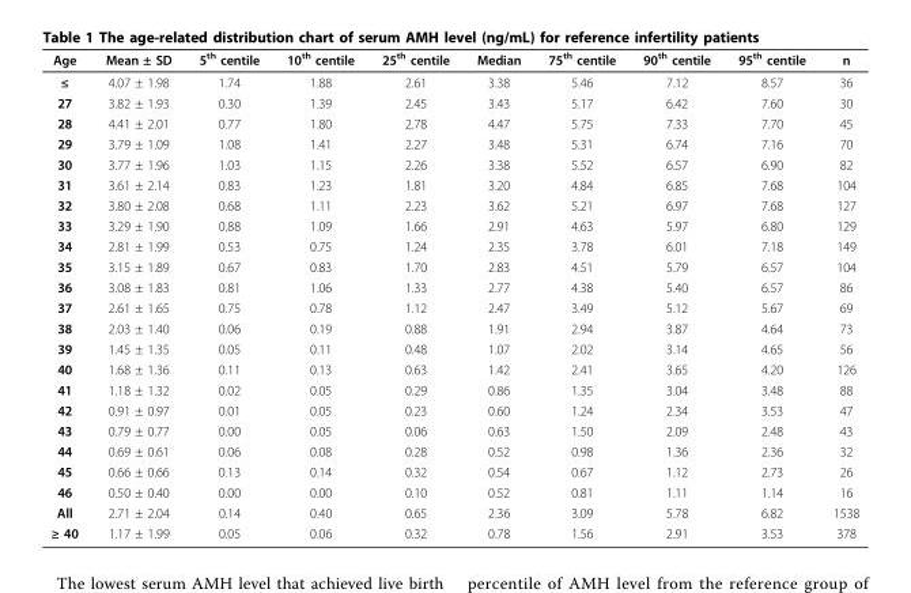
<table><thead><tr><td>Age</td><td>Mean ± SD</td><td>5<sup>th</sup> centile</td><td>10<sup>th</sup> centile</td><td>25<sup>th</sup> centile</td><td>Median</td><td>75<sup>th</sup> centile</td><td>90<sup>th</sup> centile</td><td>95<sup>th</sup> centile</td><td>n</td></tr></thead><tbody><tr><td>≤</td><td>4.07 ± 1.98</td><td>1.74</td><td>1.88</td><td>2.61</td><td>3.38</td><td>5.46</td><td>7.12</td><td>8.57</td><td>36</td></tr><tr><td>27</td><td>3.82 ± 1.93</td><td>0.30</td><td>1.39</td><td>2.45</td><td>3.43</td><td>5.17</td><td>6.42</td><td>7.60</td><td>30</td></tr><tr><td>28</td><td>4.41 ± 2.01</td><td>0.77</td><td>1.80</td><td>2.78</td><td>4.47</td><td>5.75</td><td>7.33</td><td>7.70</td><td>45</td></tr><tr><td>29</td><td>3.79 ± 1.09</td><td>1.08</td><td>1.41</td><td>2.27</td><td>3.48</td><td>5.31</td><td>6.74</td><td>7.16</td><td>70</td></tr><tr><td>30</td><td>3.77 ± 1.96</td><td>1.03</td><td>1.15</td><td>2.26</td><td>3.38</td><td>5.52</td><td>6.57</td><td>6.90</td><td>82</td></tr><tr><td>31</td><td>3.61 ± 2.14</td><td>0.83</td><td>1.23</td><td>1.81</td><td>3.20</td><td>4.84</td><td>6.85</td><td>7.68</td><td>104</td></tr><tr><td>32</td><td>3.80 ± 2.08</td><td>0.68</td><td>1.11</td><td>2.23</td><td>3.62</td><td>5.21</td><td>6.97</td><td>7.68</td><td>127</td></tr><tr><td>33</td><td>3.29 ± 1.90</td><td>0.88</td><td>1.09</td><td>1.66</td><td>2.91</td><td>4.63</td><td>5.97</td><td>6.80</td><td>129</td></tr><tr><td>34</td><td>2.81 ± 1.99</td><td>0.53</td><td>0.75</td><td>1.24</td><td>2.35</td><td>3.78</td><td>6.01</td><td>7.18</td><td>149</td></tr><tr><td>35</td><td>3.15 ± 1.89</td><td>0.67</td><td>0.83</td><td>1.70</td><td>2.83</td><td>4.51</td><td>5.79</td><td>6.57</td><td>104</td></tr><tr><td>36</td><td>3.08 ± 1.83</td><td>0.81</td><td>1.06</td><td>1.33</td><td>2.77</td><td>4.38</td><td>5.40</td><td>6.57</td><td>86</td></tr><tr><td>37</td><td>2.61 ± 1.65</td><td>0.75</td><td>0.78</td><td>1.12</td><td>2.47</td><td>3.49</td><td>5.12</td><td>5.67</td><td>69</td></tr><tr><td>38</td><td>2.03 ± 1.40</td><td>0.06</td><td>0.19</td><td>0.88</td><td>1.91</td><td>2.94</td><td>3.87</td><td>4.64</td><td>73</td></tr><tr><td>39</td><td>1.45 ± 1.35</td><td>0.05</td><td>0.11</td><td>0.48</td><td>1.07</td><td>2.02</td><td>3.14</td><td>4.65</td><td>56</td></tr><tr><td>40</td><td>1.68 ± 1.36</td><td>0.11</td><td>0.13</td><td>0.63</td><td>1.42</td><td>2.41</td><td>3.65</td><td>4.20</td><td>126</td></tr><tr><td>41</td><td>1.18 ± 1.32</td><td>0.02</td><td>0.05</td><td>0.29</td><td>0.86</td><td>1.35</td><td>3.04</td><td>3.48</td><td>88</td></tr><tr><td>42</td><td>0.91 ± 0.97</td><td>0.01</td><td>0.05</td><td>0.23</td><td>0.60</td><td>1.24</td><td>2.34</td><td>3.53</td><td>47</td></tr><tr><td>43</td><td>0.79 ± 0.77</td><td>0.00</td><td>0.05</td><td>0.06</td><td>0.63</td><td>1.50</td><td>2.09</td><td>2.48</td><td>43</td></tr><tr><td>44</td><td>0.69 ± 0.61</td><td>0.06</td><td>0.08</td><td>0.28</td><td>0.52</td><td>0.98</td><td>1.36</td><td>2.36</td><td>32</td></tr><tr><td>45</td><td>0.66 ± 0.66</td><td>0.13</td><td>0.14</td><td>0.32</td><td>0.54</td><td>0.67</td><td>1.12</td><td>2.73</td><td>26</td></tr><tr><td>46</td><td>0.50 ± 0.40</td><td>0.00</td><td>0.00</td><td>0.10</td><td>0.52</td><td>0.81</td><td>1.11</td><td>1.14</td><td>16</td></tr><tr><td>All</td><td>2.71 ± 2.04</td><td>0.14</td><td>0.40</td><td>0.65</td><td>2.36</td><td>3.09</td><td>5.78</td><td>6.82</td><td>1538</td></tr><tr><td>≥ 40</td><td>1.17 ± 1.99</td><td>0.05</td><td>0.06</td><td>0.32</td><td>0.78</td><td>1.56</td><td>2.91</td><td>3.53</td><td>378</td></tr></tbody></table>